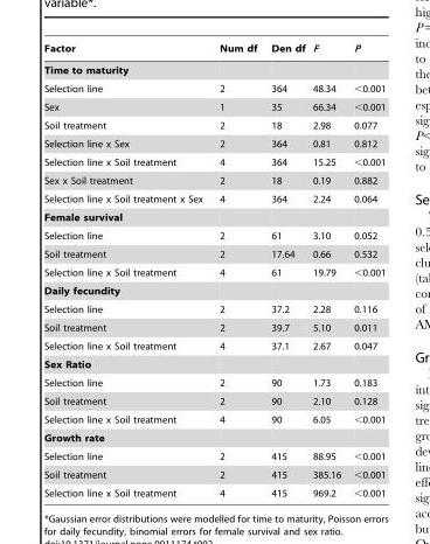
<table><thead><tr><td>Factor</td><td>Num df</td><td>Den df</td><td>F</td><td>P</td></tr></thead><tbody><tr><td colspan="5">Time to maturity</td></tr><tr><td>Selection line</td><td>2</td><td>364</td><td>48.34</td><td>&lt;0.001</td></tr><tr><td>Sex</td><td>1</td><td>35</td><td>66.34</td><td>&lt;0.001</td></tr><tr><td>Soil treatment</td><td>2</td><td>18</td><td>2.98</td><td>0.077</td></tr><tr><td>Selection line x Sex</td><td>2</td><td>364</td><td>0.81</td><td>0.812</td></tr><tr><td>Selection line x Soil treatment</td><td>4</td><td>364</td><td>15.25</td><td>&lt;0.001</td></tr><tr><td>Sex x Soil treatment</td><td>2</td><td>18</td><td>0.19</td><td>0.882</td></tr><tr><td>Selection line x Soil treatment x Sex</td><td>4</td><td>364</td><td>2.24</td><td>0.064</td></tr><tr><td colspan="5">Female survival</td></tr><tr><td>Selection line</td><td>2</td><td>61</td><td>3.10</td><td>0.052</td></tr><tr><td>Soil treatment</td><td>2</td><td>17.64</td><td>0.66</td><td>0.532</td></tr><tr><td>Selection line x Soil treatment</td><td>4</td><td>61</td><td>19.79</td><td>&lt;0.001</td></tr><tr><td colspan="5">Daily fecundity</td></tr><tr><td>Selection line</td><td>2</td><td>37.2</td><td>2.28</td><td>0.116</td></tr><tr><td>Soil treatment</td><td>2</td><td>39.7</td><td>5.10</td><td>0.011</td></tr><tr><td>Selection line x Soil treatment</td><td>4</td><td>37.1</td><td>2.67</td><td>0.047</td></tr><tr><td colspan="5">Sex Ratio</td></tr><tr><td>Selection line</td><td>2</td><td>90</td><td>1.73</td><td>0.183</td></tr><tr><td>Soil treatment</td><td>2</td><td>90</td><td>2.10</td><td>0.128</td></tr><tr><td>Selection line x Soil treatment</td><td>4</td><td>90</td><td>6.05</td><td>&lt;0.001</td></tr><tr><td colspan="5">Growth rate</td></tr><tr><td>Selection line</td><td>2</td><td>415</td><td>88.95</td><td>&lt;0.001</td></tr><tr><td>Soil treatment</td><td>2</td><td>415</td><td>385.16</td><td>&lt;0.001</td></tr><tr><td>Selection line x Soil treatment</td><td>4</td><td>415</td><td>969.2</td><td>&lt;0.001</td></tr></tbody></table>